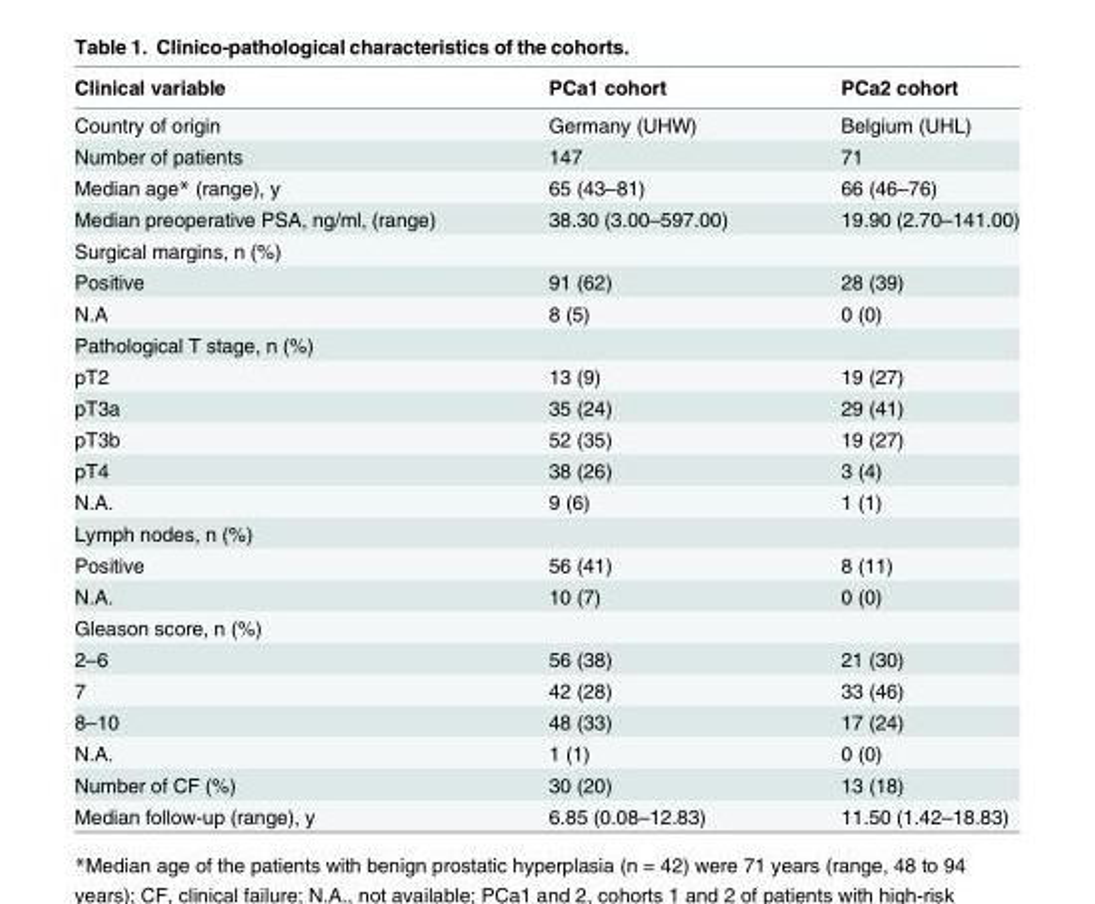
<table><thead><tr><td>Clinical variable</td><td>PCa1 cohort</td><td>PCa2 cohort</td></tr></thead><tbody><tr><td>Country of origin</td><td>Germany (UHW)</td><td>Belgium (UHL)</td></tr><tr><td>Number of patients</td><td>147</td><td>71</td></tr><tr><td>Median age* (range), y</td><td>65 (43–81)</td><td>66 (46–76)</td></tr><tr><td>Median preoperative PSA, ng/ml, (range)</td><td>38.30 (3.00–597.00)</td><td>19.90 (2.70–141.00)</td></tr><tr><td colspan="3">Surgical margins, n (%)</td></tr><tr><td>Positive</td><td>91 (62)</td><td>28 (39)</td></tr><tr><td>N.A</td><td>8 (5)</td><td>0 (0)</td></tr><tr><td colspan="3">Pathological T stage, n (%)</td></tr><tr><td>pT2</td><td>13 (9)</td><td>19 (27)</td></tr><tr><td>pT3a</td><td>35 (24)</td><td>29 (41)</td></tr><tr><td>pT3b</td><td>52 (35)</td><td>19 (27)</td></tr><tr><td>pT4</td><td>38 (26)</td><td>3 (4)</td></tr><tr><td>N.A.</td><td>9 (6)</td><td>1 (1)</td></tr><tr><td colspan="3">Lymph nodes, n (%)</td></tr><tr><td>Positive</td><td>56 (41)</td><td>8 (11)</td></tr><tr><td>N.A.</td><td>10 (7)</td><td>0 (0)</td></tr><tr><td colspan="3">Gleason score, n (%)</td></tr><tr><td>2–6</td><td>56 (38)</td><td>21 (30)</td></tr><tr><td>7</td><td>42 (28)</td><td>33 (46)</td></tr><tr><td>8–10</td><td>48 (33)</td><td>17 (24)</td></tr><tr><td>N.A.</td><td>1 (1)</td><td>0 (0)</td></tr><tr><td>Number of CF (%)</td><td>30 (20)</td><td>13 (18)</td></tr><tr><td>Median follow-up (range), y</td><td>6.85 (0.08–12.83)</td><td>11.50 (1.42–18.83)</td></tr></tbody></table>